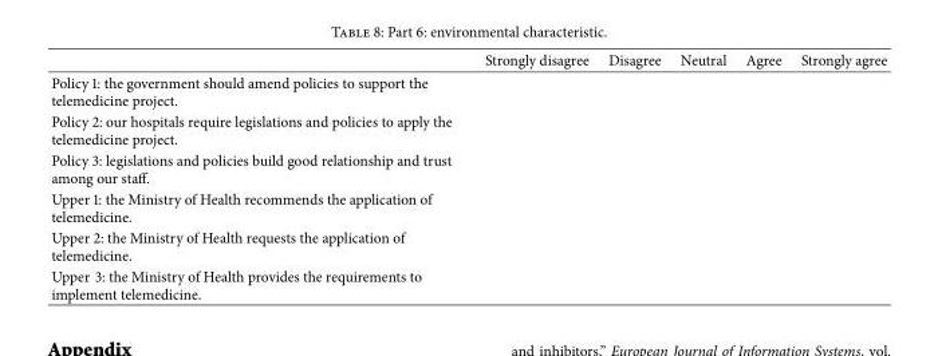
<table><thead><tr><td></td><td>Strongly disagree</td><td>Disagree</td><td>Neutral</td><td>Agree</td><td>Strongly agree</td></tr></thead><tbody><tr><td colspan="6">Policy 1: the government should amend policies to support the telemedicine project.</td></tr><tr><td colspan="6">Policy 2: our hospitals require legislations and policies to apply the telemedicine project.</td></tr><tr><td colspan="6">Policy 3: legislations and policies build good relationship and trust among our staff.</td></tr><tr><td colspan="6">Upper 1: the Ministry of Health recommends the application of telemedicine.</td></tr><tr><td colspan="6">Upper 2: the Ministry of Health requests the application of telemedicine.</td></tr><tr><td>Upper 3: the Ministry of Health provides the requirements to implement telemedicine.</td><td></td><td></td><td></td><td></td><td></td></tr></tbody></table>